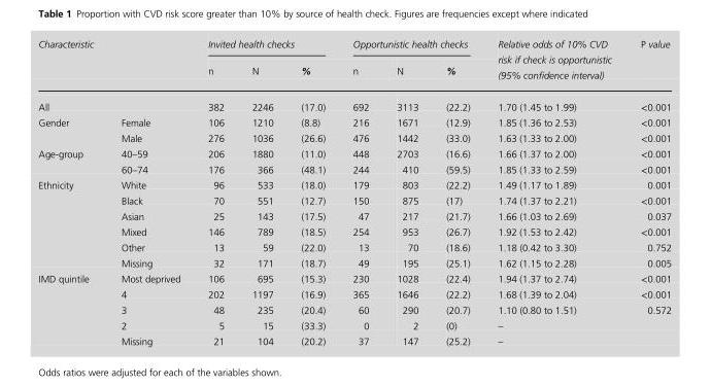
<table><thead><tr><td rowspan="2">Characteristic</td><td rowspan="2"></td><td colspan="3">Invited health checks</td><td colspan="3">Opportunistic health checks</td><td rowspan="2">Relative odds of 10% CVD risk if check is opportunistic (95% confidence interval)</td><td rowspan="2">P value</td></tr><tr><td>n</td><td>N</td><td>%</td><td>n</td><td>N</td><td>%</td></tr></thead><tbody><tr><td>All</td><td></td><td>382</td><td>2246</td><td>(17.0)</td><td>692</td><td>3113</td><td>(22.2)</td><td>1.70 (1.45 to 1.99)</td><td>&lt;0.001</td></tr><tr><td rowspan="2">Gender</td><td>Female</td><td>106</td><td>1210</td><td>(8.8)</td><td>216</td><td>1671</td><td>(12.9)</td><td>1.85 (1.36 to 2.53)</td><td>&lt;0.001</td></tr><tr><td>Male</td><td>276</td><td>1036</td><td>(26.6)</td><td>476</td><td>1442</td><td>(33.0)</td><td>1.63 (1.33 to 2.00)</td><td>&lt;0.001</td></tr><tr><td rowspan="2">Age-group</td><td>40–59</td><td>206</td><td>1880</td><td>(11.0)</td><td>448</td><td>2703</td><td>(16.6)</td><td>1.66 (1.37 to 2.00)</td><td>&lt;0.001</td></tr><tr><td>60–74</td><td>176</td><td>366</td><td>(48.1)</td><td>244</td><td>410</td><td>(59.5)</td><td>1.85 (1.33 to 2.59)</td><td>&lt;0.001</td></tr><tr><td rowspan="6">Ethnicity</td><td>White</td><td>96</td><td>533</td><td>(18.0)</td><td>179</td><td>803</td><td>(22.2)</td><td>1.49 (1.17 to 1.89)</td><td>0.001</td></tr><tr><td>Black</td><td>70</td><td>551</td><td>(12.7)</td><td>150</td><td>875</td><td>(17)</td><td>1.74 (1.37 to 2.21)</td><td>&lt;0.001</td></tr><tr><td>Asian</td><td>25</td><td>143</td><td>(17.5)</td><td>47</td><td>217</td><td>(21.7)</td><td>1.66 (1.03 to 2.69)</td><td>0.037</td></tr><tr><td>Mixed</td><td>146</td><td>789</td><td>(18.5)</td><td>254</td><td>953</td><td>(26.7)</td><td>1.92 (1.53 to 2.42)</td><td>&lt;0.001</td></tr><tr><td>Other</td><td>13</td><td>59</td><td>(22.0)</td><td>13</td><td>70</td><td>(18.6)</td><td>1.18 (0.42 to 3.30)</td><td>0.752</td></tr><tr><td>Missing</td><td>32</td><td>171</td><td>(18.7)</td><td>49</td><td>195</td><td>(25.1)</td><td>1.62 (1.15 to 2.28)</td><td>0.005</td></tr><tr><td rowspan="5">IMD quintile</td><td>Most deprived</td><td>106</td><td>695</td><td>(15.3)</td><td>230</td><td>1028</td><td>(22.4)</td><td>1.94 (1.37 to 2.74)</td><td>&lt;0.001</td></tr><tr><td>4</td><td>202</td><td>1197</td><td>(16.9)</td><td>365</td><td>1646</td><td>(22.2)</td><td>1.68 (1.39 to 2.04)</td><td>&lt;0.001</td></tr><tr><td>3</td><td>48</td><td>235</td><td>(20.4)</td><td>60</td><td>290</td><td>(20.7)</td><td>1.10 (0.80 to 1.51)</td><td>0.572</td></tr><tr><td>2</td><td>5</td><td>15</td><td>(33.3)</td><td>0</td><td>2</td><td>(0)</td><td>–</td><td></td></tr><tr><td>Missing</td><td>21</td><td>104</td><td>(20.2)</td><td>37</td><td>147</td><td>(25.2)</td><td>–</td><td></td></tr></tbody></table>